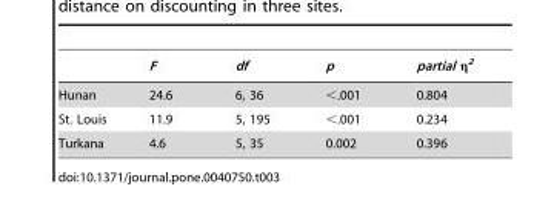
<table><thead><tr><td></td><td>F</td><td>df</td><td>p</td><td>partial η<sup>2</sup></td></tr></thead><tbody><tr><td>Hunan</td><td>24.6</td><td>6, 36</td><td>&lt;.001</td><td>0.804</td></tr><tr><td>St. Louis</td><td>11.9</td><td>5, 195</td><td>&lt;.001</td><td>0.234</td></tr><tr><td>Turkana</td><td>4.6</td><td>5, 35</td><td>0.002</td><td>0.396</td></tr></tbody></table>